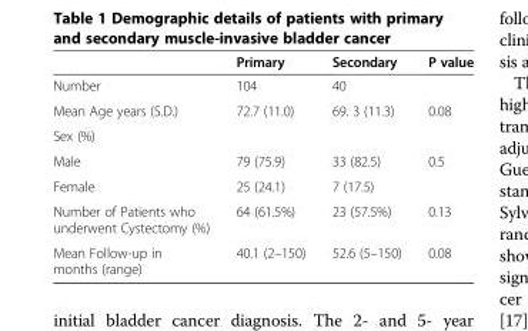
<table><thead><tr><td></td><td>Primary</td><td>Secondary</td><td>P value</td></tr></thead><tbody><tr><td>Number</td><td>104</td><td>40</td><td></td></tr><tr><td>Mean Age years (S.D.)</td><td>72.7 (11.0)</td><td>69. 3 (11.3)</td><td>0.08</td></tr><tr><td colspan="4">Sex (%)</td></tr><tr><td>Male</td><td>79 (75.9)</td><td>33 (82.5)</td><td>0.5</td></tr><tr><td>Female</td><td>25 (24.1)</td><td>7 (17.5)</td><td></td></tr><tr><td>Number of Patients who underwent Cystectomy (%)</td><td>64 (61.5%)</td><td>23 (57.5%)</td><td>0.13</td></tr><tr><td>Mean Follow-up in months (range)</td><td>40.1 (2–150)</td><td>52.6 (5–150)</td><td>0.08</td></tr></tbody></table>